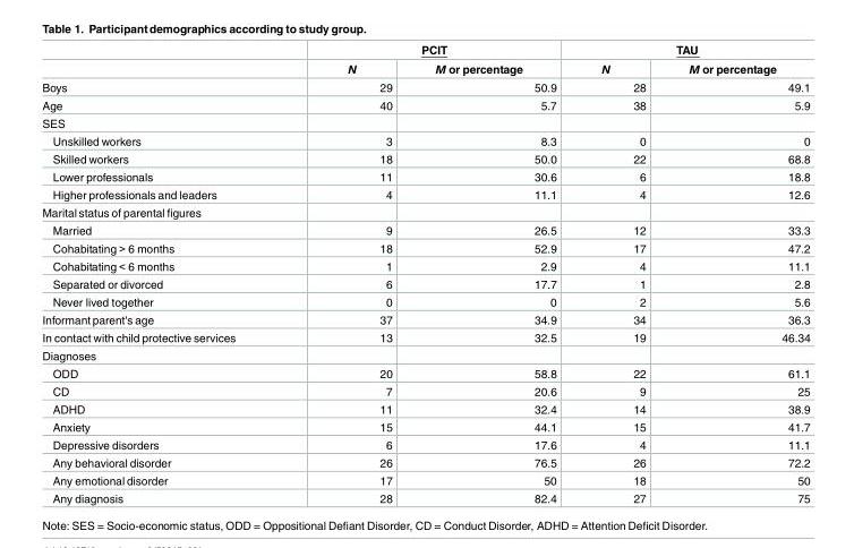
<table><thead><tr><td rowspan="2"></td><td colspan="2">PCIT</td><td colspan="2">TAU</td></tr><tr><td>N</td><td>M or percentage</td><td>N</td><td>M or percentage</td></tr></thead><tbody><tr><td>Boys</td><td>29</td><td>50.9</td><td>28</td><td>49.1</td></tr><tr><td>Age</td><td>40</td><td>5.7</td><td>38</td><td>5.9</td></tr><tr><td colspan="5">SES</td></tr><tr><td>Unskilled workers</td><td>3</td><td>8.3</td><td>0</td><td>0</td></tr><tr><td>Skilled workers</td><td>18</td><td>50.0</td><td>22</td><td>68.8</td></tr><tr><td>Lower professionals</td><td>11</td><td>30.6</td><td>6</td><td>18.8</td></tr><tr><td>Higher professionals and leaders</td><td>4</td><td>11.1</td><td>4</td><td>12.6</td></tr><tr><td colspan="5">Marital status of parental figures</td></tr><tr><td>Married</td><td>9</td><td>26.5</td><td>12</td><td>33.3</td></tr><tr><td>Cohabitating &gt; 6 months</td><td>18</td><td>52.9</td><td>17</td><td>47.2</td></tr><tr><td>Cohabitating &lt; 6 months</td><td>1</td><td>2.9</td><td>4</td><td>11.1</td></tr><tr><td>Separated or divorced</td><td>6</td><td>17.7</td><td>1</td><td>2.8</td></tr><tr><td>Never lived together</td><td>0</td><td>0</td><td>2</td><td>5.6</td></tr><tr><td>Informant parent&#x27;s age</td><td>37</td><td>34.9</td><td>34</td><td>36.3</td></tr><tr><td>In contact with child protective services</td><td>13</td><td>32.5</td><td>19</td><td>46.34</td></tr><tr><td colspan="5">Diagnoses</td></tr><tr><td>ODD</td><td>20</td><td>58.8</td><td>22</td><td>61.1</td></tr><tr><td>CD</td><td>7</td><td>20.6</td><td>9</td><td>25</td></tr><tr><td>ADHD</td><td>11</td><td>32.4</td><td>14</td><td>38.9</td></tr><tr><td>Anxiety</td><td>15</td><td>44.1</td><td>15</td><td>41.7</td></tr><tr><td>Depressive disorders</td><td>6</td><td>17.6</td><td>4</td><td>11.1</td></tr><tr><td>Any behavioral disorder</td><td>26</td><td>76.5</td><td>26</td><td>72.2</td></tr><tr><td>Any emotional disorder</td><td>17</td><td>50</td><td>18</td><td>50</td></tr><tr><td>Any diagnosis</td><td>28</td><td>82.4</td><td>27</td><td>75</td></tr></tbody></table>